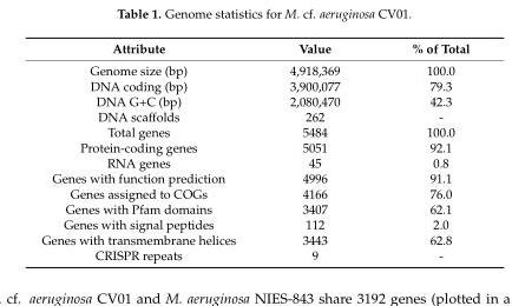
<table><thead><tr><td>Attribute</td><td>Value</td><td>% of Total</td></tr></thead><tbody><tr><td>Genome size (bp)</td><td>4,918,369</td><td>100.0</td></tr><tr><td>DNA coding (bp)</td><td>3,900,077</td><td>79.3</td></tr><tr><td>DNA G+C (bp)</td><td>2,080,470</td><td>42.3</td></tr><tr><td>DNA scaffolds</td><td>262</td><td>-</td></tr><tr><td>Total genes</td><td>5484</td><td>100.0</td></tr><tr><td>Protein-coding genes</td><td>5051</td><td>92.1</td></tr><tr><td>RNA genes</td><td>45</td><td>0.8</td></tr><tr><td>Genes with function prediction</td><td>4996</td><td>91.1</td></tr><tr><td>Genes assigned to COGs</td><td>4166</td><td>76.0</td></tr><tr><td>Genes with Pfam domains</td><td>3407</td><td>62.1</td></tr><tr><td>Genes with signal peptides</td><td>112</td><td>2.0</td></tr><tr><td>Genes with transmembrane helices</td><td>3443</td><td>62.8</td></tr><tr><td>CRISPR repeats</td><td>9</td><td>-</td></tr></tbody></table>